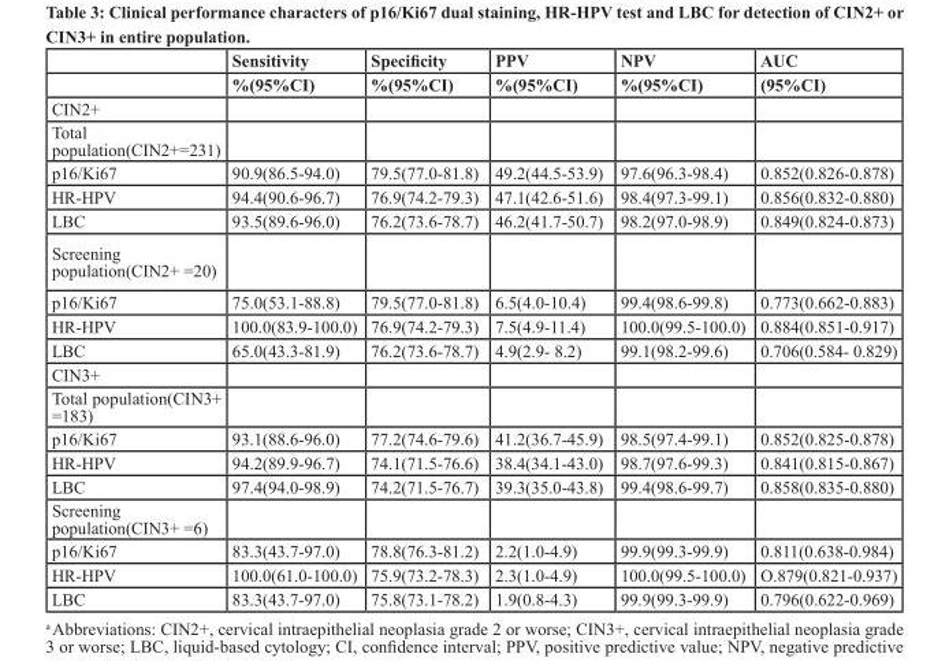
<table><thead><tr><td rowspan="2"></td><td rowspan="2">Sensitivity %(95%CI)</td><td rowspan="2">Specificity %(95%CI)</td><td rowspan="2">PPV %(95%CI)</td><td rowspan="2">NPV %(95%CI)</td><td rowspan="2">AUC (95%CI)</td></tr><tr></tr></thead><tbody><tr><td colspan="6">CIN2+</td></tr><tr><td colspan="6">Total population(CIN2+=231)</td></tr><tr><td>p16/Ki67</td><td>90.9(86.5-94.0)</td><td>79.5(77.0-81.8)</td><td>49.2(44.5-53.9)</td><td>97.6(96.3-98.4)</td><td>0.852(0.826-0.878)</td></tr><tr><td>HR-HPV</td><td>94.4(90.6-96.7)</td><td>76.9(74.2-79.3)</td><td>47.1(42.6-51.6)</td><td>98.4(97.3-99.1)</td><td>0.856(0.832-0.880)</td></tr><tr><td>LBC</td><td>93.5(89.6-96.0)</td><td>76.2(73.6-78.7)</td><td>46.2(41.7-50.7)</td><td>98.2(97.0-98.9)</td><td>0.849(0.824-0.873)</td></tr><tr><td colspan="6">Screening population(CIN2+ =20)</td></tr><tr><td>p16/Ki67</td><td>75.0(53.1-88.8)</td><td>79.5(77.0-81.8)</td><td>6.5(4.0-10.4)</td><td>99.4(98.6-99.8)</td><td>0.773(0.662-0.883)</td></tr><tr><td>HR-HPV</td><td>100.0(83.9-100.0)</td><td>76.9(74.2-79.3)</td><td>7.5(4.9-11.4)</td><td>100.0(99.5-100.0)</td><td>0.884(0.851-0.917)</td></tr><tr><td>LBC</td><td>65.0(43.3-81.9)</td><td>76.2(73.6-78.7)</td><td>4.9(2.9- 8.2)</td><td>99.1(98.2-99.6)</td><td>0.706(0.584- 0.829)</td></tr><tr><td colspan="6">CIN3+</td></tr><tr><td colspan="6">Total population(CIN3+ =183)</td></tr><tr><td>p16/Ki67</td><td>93.1(88.6-96.0)</td><td>77.2(74.6-79.6)</td><td>41.2(36.7-45.9)</td><td>98.5(97.4-99.1)</td><td>0.852(0.825-0.878)</td></tr><tr><td>HR-HPV</td><td>94.2(89.9-96.7)</td><td>74.1(71.5-76.6)</td><td>38.4(34.1-43.0)</td><td>98.7(97.6-99.3)</td><td>0.841(0.815-0.867)</td></tr><tr><td>LBC</td><td>97.4(94.0-98.9)</td><td>74.2(71.5-76.7)</td><td>39.3(35.0-43.8)</td><td>99.4(98.6-99.7)</td><td>0.858(0.835-0.880)</td></tr><tr><td colspan="6">Screening population(CIN3+ =6)</td></tr><tr><td>p16/Ki67</td><td>83.3(43.7-97.0)</td><td>78.8(76.3-81.2)</td><td>2.2(1.0-4.9)</td><td>99.9(99.3-99.9)</td><td>0.811(0.638-0.984)</td></tr><tr><td>HR-HPV</td><td>100.0(61.0-100.0)</td><td>75.9(73.2-78.3)</td><td>2.3(1.0-4.9)</td><td>100.0(99.5-100.0)</td><td>O.879(0.821-0.937)</td></tr><tr><td>LBC</td><td>83.3(43.7-97.0)</td><td>75.8(73.1-78.2)</td><td>1.9(0.8-4.3)</td><td>99.9(99.3-99.9)</td><td>0.796(0.622-0.969)</td></tr></tbody></table>